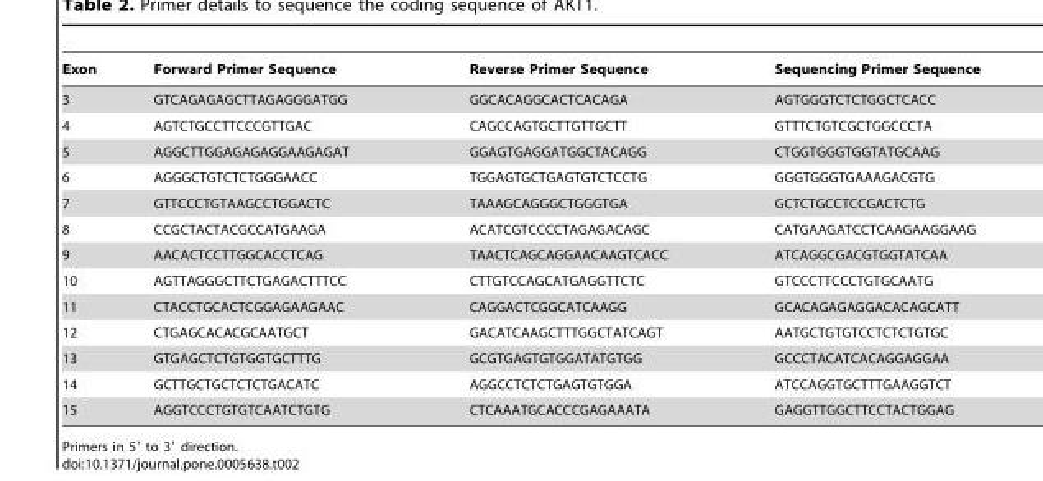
<table><thead><tr><td>Exon</td><td>Forward Primer Sequence</td><td>Reverse Primer Sequence</td><td>Sequencing Primer Sequence</td></tr></thead><tbody><tr><td>3</td><td>GTCAGAGAGCTTAGAGGGATGG</td><td>GGCACAGGCACTCACAGA</td><td>AGTGGGTCTCTGGCTCACC</td></tr><tr><td>4</td><td>AGTCTGCCTTCCCGTTGAC</td><td>CAGCCAGTGCTTGTTGCTT</td><td>GTTTCTGTCGCTGGCCCTA</td></tr><tr><td>5</td><td>AGGCTTGGAGAGAGGAAGAGAT</td><td>GGAGTGAGGATGGCTACAGG</td><td>CTGGTGGGTGGTATGCAAG</td></tr><tr><td>6</td><td>AGGGCTGTCTCTGGGAACC</td><td>TGGAGTGCTGAGTGTCTCCTG</td><td>GGGTGGGTGAAAGACGTG</td></tr><tr><td>7</td><td>GTTCCCTGTAAGCCTGGACTC</td><td>TAAAGCAGGGCTGGGTGA</td><td>GCTCTGCCTCCGACTCTG</td></tr><tr><td>8</td><td>CCGCTACTACGCCATGAAGA</td><td>ACATCGTCCCCTAGAGACAGC</td><td>CATGAAGATCCTCAAGAAGGAAG</td></tr><tr><td>9</td><td>AACACTCCTTGGCACCTCAG</td><td>TAACTCAGCAGGAACAAGTCACC</td><td>ATCAGGCGACGTGGTATCAA</td></tr><tr><td>10</td><td>AGTTAGGGCTTCTGAGACTTTCC</td><td>CTTGTCCAGCATGAGGTTCTC</td><td>GTCCCTTCCCTGTGCAATG</td></tr><tr><td>11</td><td>CTACCTGCACTCGGAGAAGAAC</td><td>CAGGACTCGGCATCAAGG</td><td>GCACAGAGAGGACACAGCATT</td></tr><tr><td>12</td><td>CTGAGCACACGCAATGCT</td><td>GACATCAAGCTTTGGCTATCAGT</td><td>AATGCTGTGTCCTCTCTGTGC</td></tr><tr><td>13</td><td>GTGAGCTCTGTGGTGCTTTG</td><td>GCGTGAGTGTGGATATGTGG</td><td>GCCCTACATCACAGGAGGAA</td></tr><tr><td>14</td><td>GCTTGCTGCTCTCTGACATC</td><td>AGGCCTCTCTGAGTGTGGA</td><td>ATCCAGGTGCTTTGAAGGTCT</td></tr><tr><td>15</td><td>AGGTCCCTGTGTCAATCTGTG</td><td>CTCAAATGCACCCGAGAAATA</td><td>GAGGTTGGCTTCCTACTGGAG</td></tr></tbody></table>